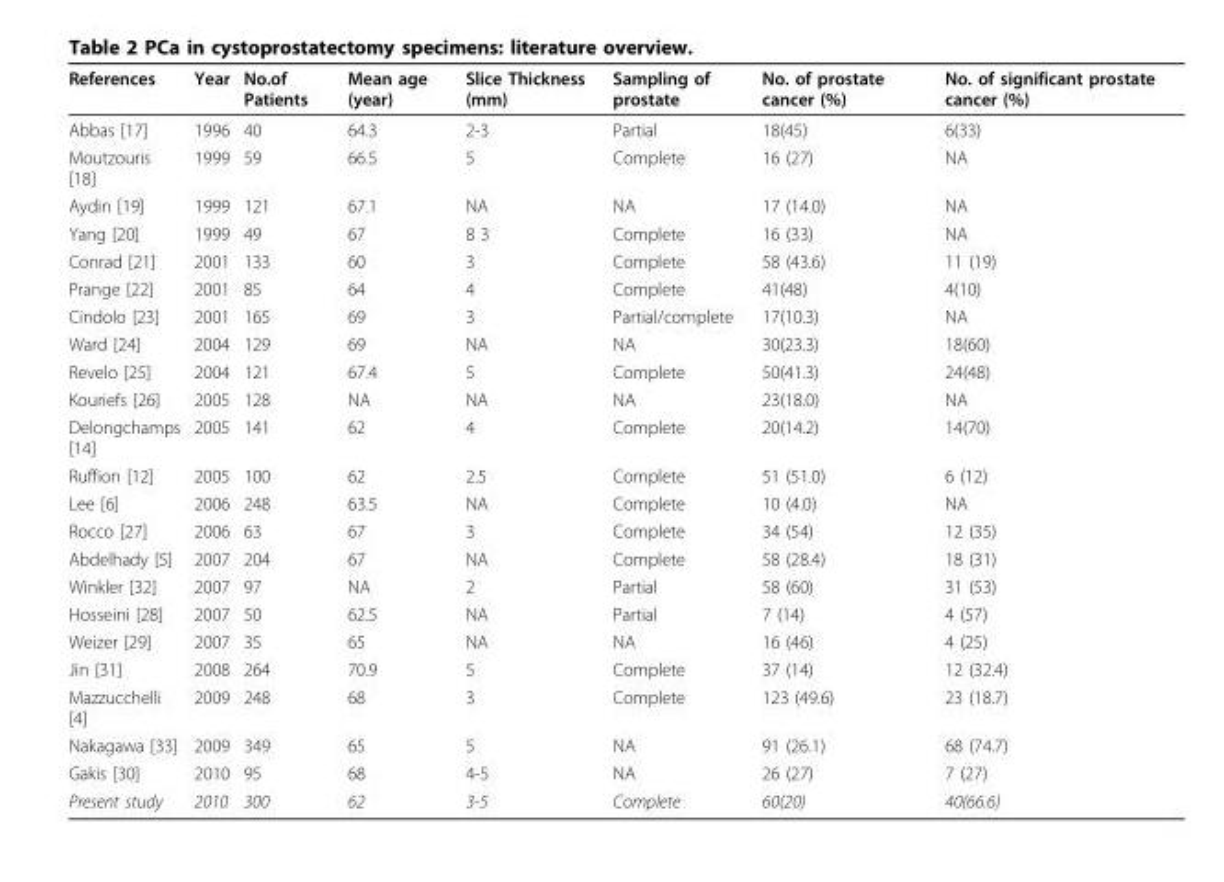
<table><thead><tr><td>References</td><td>Year</td><td>No.of Patients</td><td>Mean age (year)</td><td>Slice Thickness (mm)</td><td>Sampling of prostate</td><td>No. of prostate cancer (%)</td><td>No. of significant prostate cancer (%)</td></tr></thead><tbody><tr><td>Abbas [17]</td><td>1996</td><td>40</td><td>64.3</td><td>2-3</td><td>Partial</td><td>18(45)</td><td>6(33)</td></tr><tr><td>Moutzouris [18]</td><td>1999</td><td>59</td><td>66.5</td><td>5</td><td>Complete</td><td>16 (27)</td><td>NA</td></tr><tr><td>Aydin [19]</td><td>1999</td><td>121</td><td>67.1</td><td>NA</td><td>NA</td><td>17 (14.0)</td><td>NA</td></tr><tr><td>Yang [20]</td><td>1999</td><td>49</td><td>67</td><td>8 3</td><td>Complete</td><td>16 (33)</td><td>NA</td></tr><tr><td>Conrad [21]</td><td>2001</td><td>133</td><td>60</td><td>3</td><td>Complete</td><td>58 (43.6)</td><td>11 (19)</td></tr><tr><td>Prange [22]</td><td>2001</td><td>85</td><td>64</td><td>4</td><td>Complete</td><td>41(48)</td><td>4(10)</td></tr><tr><td>Cindolo [23]</td><td>2001</td><td>165</td><td>69</td><td>3</td><td>Partial/complete</td><td>17(10.3)</td><td>NA</td></tr><tr><td>Ward [24]</td><td>2004</td><td>129</td><td>69</td><td>NA</td><td>NA</td><td>30(23.3)</td><td>18(60)</td></tr><tr><td>Revelo [25]</td><td>2004</td><td>121</td><td>67.4</td><td>5</td><td>Complete</td><td>50(41.3)</td><td>24(48)</td></tr><tr><td>Kouriefs [26]</td><td>2005</td><td>128</td><td>NA</td><td>NA</td><td>NA</td><td>23(18.0)</td><td>NA</td></tr><tr><td>Delongchamps [14]</td><td>2005</td><td>141</td><td>62</td><td>4</td><td>Complete</td><td>20(14.2)</td><td>14(70)</td></tr><tr><td>Ruffion [12]</td><td>2005</td><td>100</td><td>62</td><td>2.5</td><td>Complete</td><td>51 (51.0)</td><td>6 (12)</td></tr><tr><td>Lee [6]</td><td>2006</td><td>248</td><td>63.5</td><td>NA</td><td>Complete</td><td>10 (4.0)</td><td>NA</td></tr><tr><td>Rocco [27]</td><td>2006</td><td>63</td><td>67</td><td>3</td><td>Complete</td><td>34 (54)</td><td>12 (35)</td></tr><tr><td>Abdelhady [5]</td><td>2007</td><td>204</td><td>67</td><td>NA</td><td>Complete</td><td>58 (28.4)</td><td>18 (31)</td></tr><tr><td>Winkler [32]</td><td>2007</td><td>97</td><td>NA</td><td>2</td><td>Partial</td><td>58 (60)</td><td>31 (53)</td></tr><tr><td>Hosseini [28]</td><td>2007</td><td>50</td><td>62.5</td><td>NA</td><td>Partial</td><td>7 (14)</td><td>4 (57)</td></tr><tr><td>Weizer [29]</td><td>2007</td><td>35</td><td>65</td><td>NA</td><td>NA</td><td>16 (46)</td><td>4 (25)</td></tr><tr><td>Jin [31]</td><td>2008</td><td>264</td><td>70.9</td><td>5</td><td>Complete</td><td>37 (14)</td><td>12 (32.4)</td></tr><tr><td>Mazzucchelli [4]</td><td>2009</td><td>248</td><td>68</td><td>3</td><td>Complete</td><td>123 (49.6)</td><td>23 (18.7)</td></tr><tr><td>Nakagawa [33]</td><td>2009</td><td>349</td><td>65</td><td>5</td><td>NA</td><td>91 (26.1)</td><td>68 (74.7)</td></tr><tr><td>Gakis [30]</td><td>2010</td><td>95</td><td>68</td><td>4-5</td><td>NA</td><td>26 (27)</td><td>7 (27)</td></tr><tr><td>Present study</td><td>2010</td><td>300</td><td>62</td><td>3-5</td><td>Complete</td><td>60(20)</td><td>40(66.6)</td></tr></tbody></table>